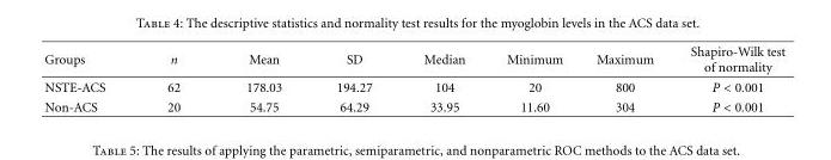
<table><thead><tr><td>Groups</td><td>n</td><td>Mean</td><td>SD</td><td>Median</td><td>Minimum</td><td>Maximum</td><td>Shapiro-Wilk test of normality</td></tr></thead><tbody><tr><td>NSTE-ACS</td><td>62</td><td>178.03</td><td>194.27</td><td>104</td><td>20</td><td>800</td><td>P &lt; 0.001</td></tr><tr><td>Non-ACS</td><td>20</td><td>54.75</td><td>64.29</td><td>33.95</td><td>11.60</td><td>304</td><td>P &lt; 0.001</td></tr></tbody></table>